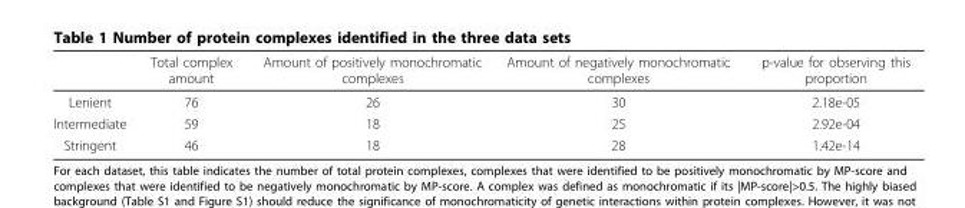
<table><thead><tr><td></td><td>Total complex amount</td><td>Amount of positively monochromatic complexes</td><td>Amount of negatively monochromatic complexes</td><td>p-value for observing this proportion</td></tr></thead><tbody><tr><td>Lenient</td><td>76</td><td>26</td><td>30</td><td>2.18e-05</td></tr><tr><td>Intermediate</td><td>59</td><td>18</td><td>25</td><td>2.92e-04</td></tr><tr><td>Stringent</td><td>46</td><td>18</td><td>28</td><td>1.42e-14</td></tr></tbody></table>